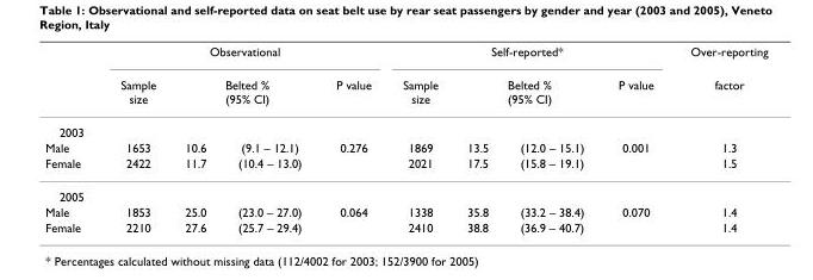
<table><thead><tr><td rowspan="3">2003</td><td colspan="4">Observational</td><td colspan="4">Self-reported*</td><td rowspan="3">Over-reporting factor</td></tr><tr><td rowspan="2">Sample size</td><td colspan="2">Belted % (95% CI)</td><td rowspan="2">P value</td><td rowspan="2">Sample size</td><td colspan="2">Belted % (95% CI)</td><td rowspan="2">P value</td></tr><tr><td></td><td></td><td></td><td></td></tr></thead><tbody><tr><td>Male</td><td>1653</td><td>10.6</td><td>(9.1 – 12.1)</td><td>0.276</td><td>1869</td><td>13.5</td><td>(12.0 – 15.1)</td><td>0.001</td><td>1.3</td></tr><tr><td>Female</td><td>2422</td><td>11.7</td><td>(10.4 – 13.0)</td><td></td><td>2021</td><td>17.5</td><td>(15.8 – 19.1)</td><td></td><td>1.5</td></tr><tr><td colspan="10">2005</td></tr><tr><td>Male</td><td>1853</td><td>25.0</td><td>(23.0 – 27.0)</td><td>0.064</td><td>1338</td><td>35.8</td><td>(33.2 – 38.4)</td><td>0.070</td><td>1.4</td></tr><tr><td>Female</td><td>2210</td><td>27.6</td><td>(25.7 – 29.4)</td><td></td><td>2410</td><td>38.8</td><td>(36.9 – 40.7)</td><td></td><td>1.4</td></tr></tbody></table>